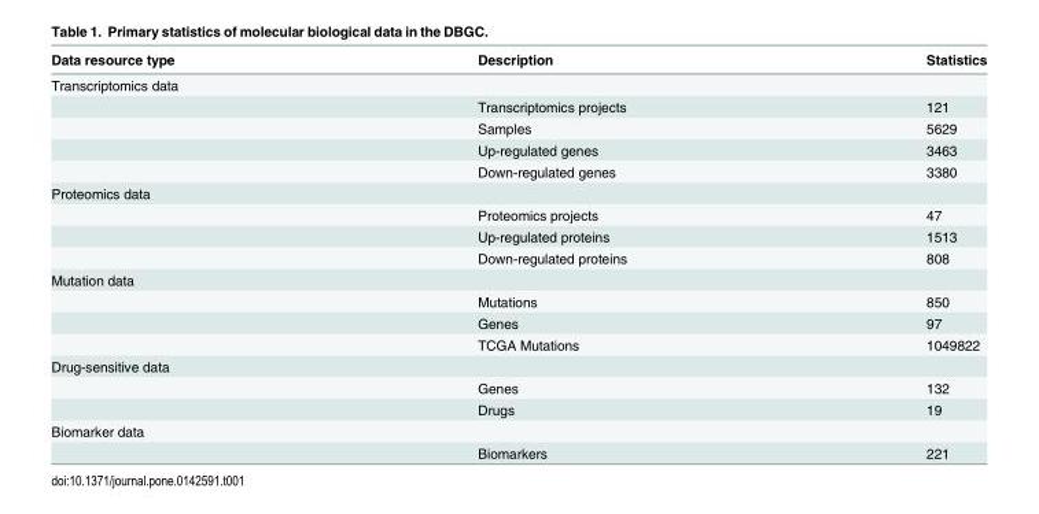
<table><thead><tr><td>Data resource type</td><td>Description</td><td>Statistics</td></tr></thead><tbody><tr><td colspan="3">Transcriptomics data</td></tr><tr><td></td><td>Transcriptomics projects</td><td>121</td></tr><tr><td></td><td>Samples</td><td>5629</td></tr><tr><td></td><td>Up-regulated genes</td><td>3463</td></tr><tr><td></td><td>Down-regulated genes</td><td>3380</td></tr><tr><td colspan="3">Proteomics data</td></tr><tr><td></td><td>Proteomics projects</td><td>47</td></tr><tr><td></td><td>Up-regulated proteins</td><td>1513</td></tr><tr><td></td><td>Down-regulated proteins</td><td>808</td></tr><tr><td colspan="3">Mutation data</td></tr><tr><td></td><td>Mutations</td><td>850</td></tr><tr><td></td><td>Genes</td><td>97</td></tr><tr><td></td><td>TCGA Mutations</td><td>1049822</td></tr><tr><td colspan="3">Drug-sensitive data</td></tr><tr><td></td><td>Genes</td><td>132</td></tr><tr><td></td><td>Drugs</td><td>19</td></tr><tr><td colspan="3">Biomarker data</td></tr><tr><td></td><td>Biomarkers</td><td>221</td></tr></tbody></table>